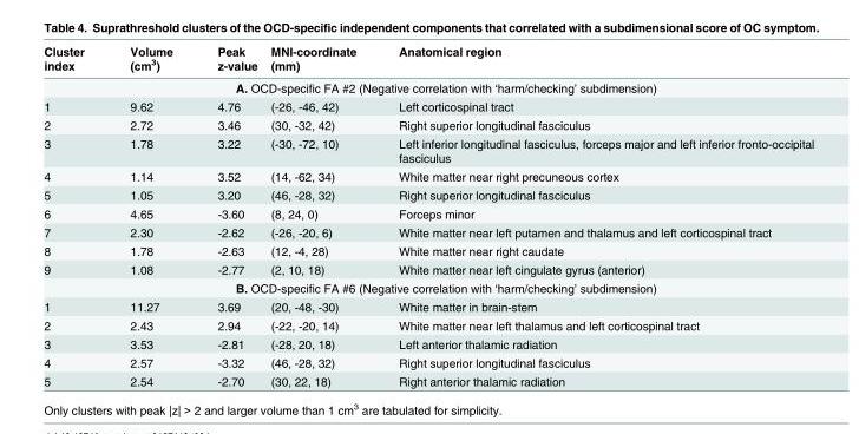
<table><thead><tr><td>Cluster index</td><td>Volume (cm<sup>3</sup>)</td><td>Peak z-value</td><td>MNI-coordinate (mm)</td><td>Anatomical region</td></tr></thead><tbody><tr><td colspan="5">A. OCD-specific FA #2 (Negative correlation with ‘harm/checking’ subdimension)</td></tr><tr><td>1</td><td>9.62</td><td>4.76</td><td>(-26, -46, 42)</td><td>Left corticospinal tract</td></tr><tr><td>2</td><td>2.72</td><td>3.46</td><td>(30, -32, 42)</td><td>Right superior longitudinal fasciculus</td></tr><tr><td>3</td><td>1.78</td><td>3.22</td><td>(-30, -72, 10)</td><td>Left inferior longitudinal fasciculus, forceps major and left inferior fronto-occipital fasciculus</td></tr><tr><td>4</td><td>1.14</td><td>3.52</td><td>(14, -62, 34)</td><td>White matter near right precuneous cortex</td></tr><tr><td>5</td><td>1.05</td><td>3.20</td><td>(46, -28, 32)</td><td>Right superior longitudinal fasciculus</td></tr><tr><td>6</td><td>4.65</td><td>-3.60</td><td>(8, 24, 0)</td><td>Forceps minor</td></tr><tr><td>7</td><td>2.30</td><td>-2.62</td><td>(-26, -20, 6)</td><td>White matter near left putamen and thalamus and left corticospinal tract</td></tr><tr><td>8</td><td>1.78</td><td>-2.63</td><td>(12, -4, 28)</td><td>White matter near right caudate</td></tr><tr><td>9</td><td>1.08</td><td>-2.77</td><td>(2, 10, 18)</td><td>White matter near left cingulate gyrus (anterior)</td></tr><tr><td colspan="5">B. OCD-specific FA #6 (Negative correlation with ‘harm/checking’ subdimension)</td></tr><tr><td>1</td><td>11.27</td><td>3.69</td><td>(20, -48, -30)</td><td>White matter in brain-stem</td></tr><tr><td>2</td><td>2.43</td><td>2.94</td><td>(-22, -20, 14)</td><td>White matter near left thalamus and left corticospinal tract</td></tr><tr><td>3</td><td>3.53</td><td>-2.81</td><td>(-28, 20, 18)</td><td>Left anterior thalamic radiation</td></tr><tr><td>4</td><td>2.57</td><td>-3.32</td><td>(46, -28, 32)</td><td>Right superior longitudinal fasciculus</td></tr><tr><td>5</td><td>2.54</td><td>-2.70</td><td>(30, 22, 18)</td><td>Right anterior thalamic radiation</td></tr></tbody></table>